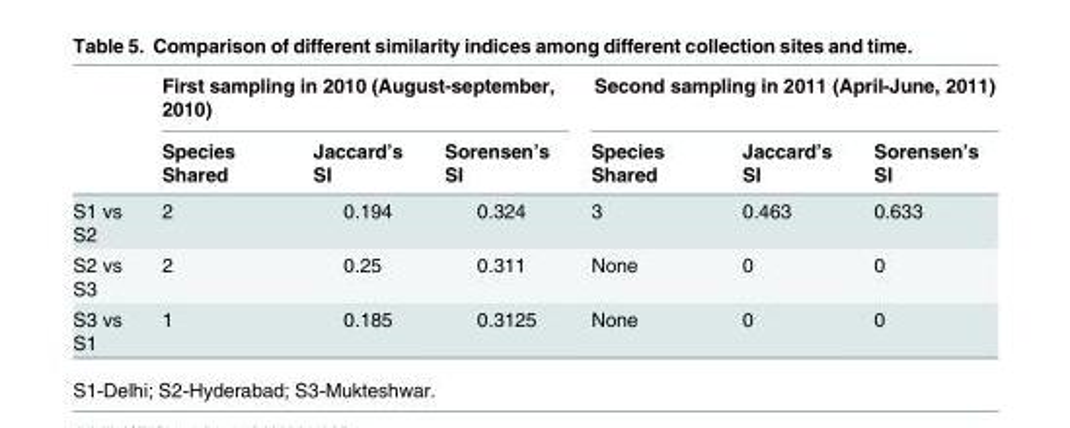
<table><thead><tr><td rowspan="2"></td><td colspan="3">First sampling in 2010 (August-september, 2010)</td><td colspan="3">Second sampling in 2011 (April-June, 2011)</td></tr><tr><td>Species Shared</td><td>Jaccard’s SI</td><td>Sorensen’s SI</td><td>Species Shared</td><td>Jaccard’s SI</td><td>Sorensen’s SI</td></tr></thead><tbody><tr><td>S1 vs S2</td><td>2</td><td>0.194</td><td>0.324</td><td>3</td><td>0.463</td><td>0.633</td></tr><tr><td>S2 vs S3</td><td>2</td><td>0.25</td><td>0.311</td><td>None</td><td>0</td><td>0</td></tr><tr><td>S3 vs S1</td><td>1</td><td>0.185</td><td>0.3125</td><td>None</td><td>0</td><td>0</td></tr></tbody></table>